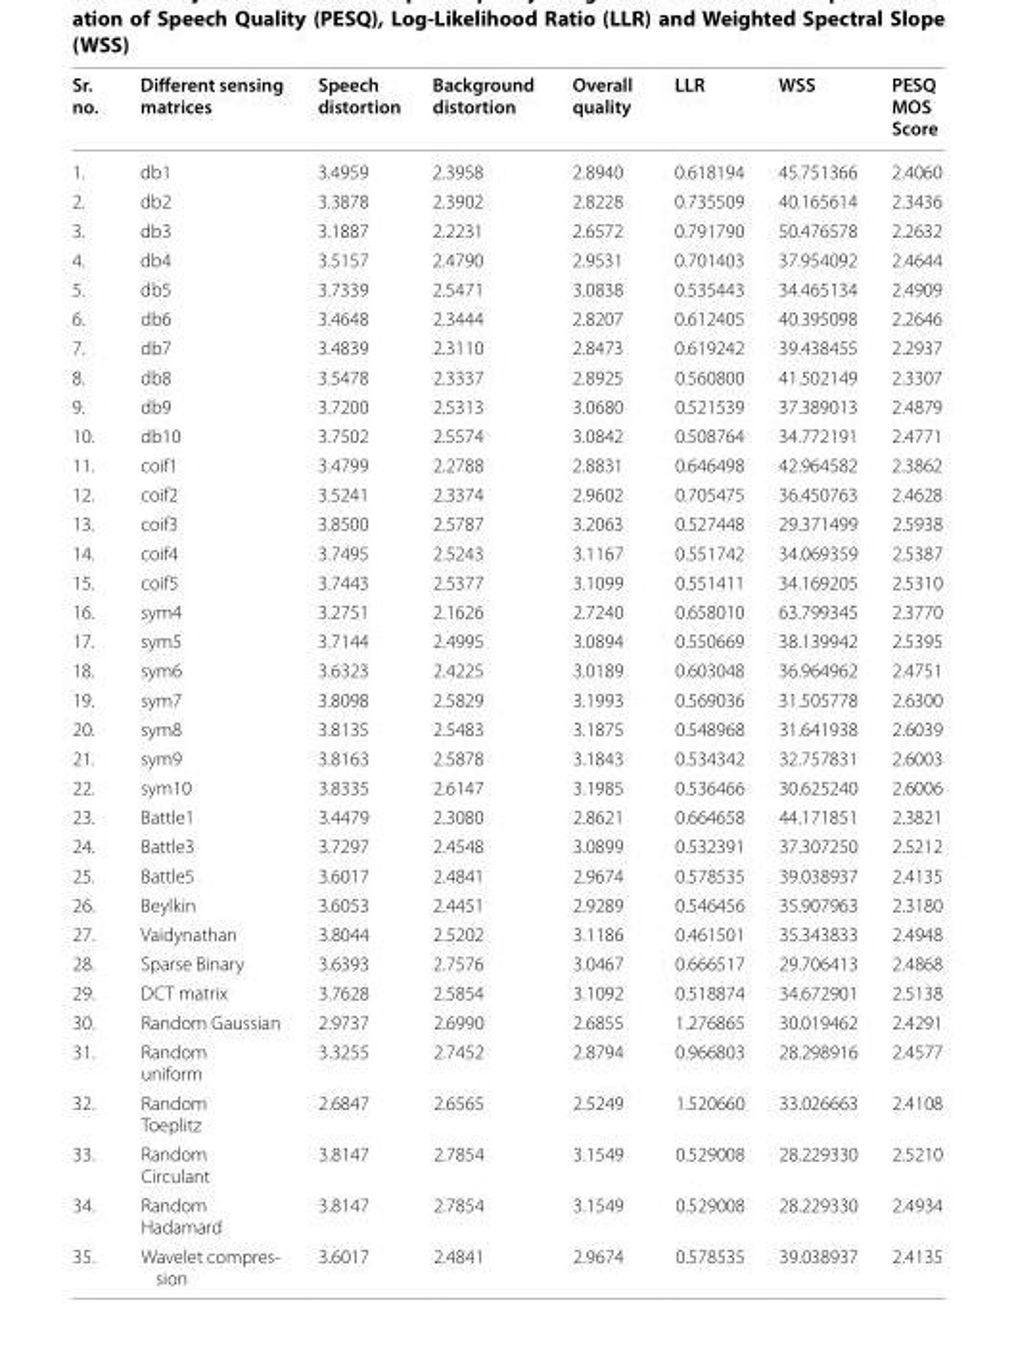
<table><thead><tr><td>Sr. no.</td><td>Different sensing matrices</td><td>Speech distortion</td><td>Background distortion</td><td>Overall quality</td><td>LLR</td><td>WSS</td><td>PESQ MOS Score</td></tr></thead><tbody><tr><td>1.</td><td>db1</td><td>3.4959</td><td>2.3958</td><td>2.8940</td><td>0.618194</td><td>45.751366</td><td>2.4060</td></tr><tr><td>2.</td><td>db2</td><td>3.3878</td><td>2.3902</td><td>2.8228</td><td>0.735509</td><td>40.165614</td><td>2.3436</td></tr><tr><td>3.</td><td>db3</td><td>3.1887</td><td>2.2231</td><td>2.6572</td><td>0.791790</td><td>50.476578</td><td>2.2632</td></tr><tr><td>4.</td><td>db4</td><td>3.5157</td><td>2.4790</td><td>2.9531</td><td>0.701403</td><td>37.954092</td><td>2.4644</td></tr><tr><td>5.</td><td>db5</td><td>3.7339</td><td>2.5471</td><td>3.0838</td><td>0.535443</td><td>34.465134</td><td>2.4909</td></tr><tr><td>6.</td><td>db6</td><td>3.4648</td><td>2.3444</td><td>2.8207</td><td>0.612405</td><td>40.395098</td><td>2.2646</td></tr><tr><td>7.</td><td>db7</td><td>3.4839</td><td>2.3110</td><td>2.8473</td><td>0.619242</td><td>39.438455</td><td>2.2937</td></tr><tr><td>8.</td><td>db8</td><td>3.5478</td><td>2.3337</td><td>2.8925</td><td>0.560800</td><td>41.502149</td><td>2.3307</td></tr><tr><td>9.</td><td>db9</td><td>3.7200</td><td>2.5313</td><td>3.0680</td><td>0.521539</td><td>37.389013</td><td>2.4879</td></tr><tr><td>10.</td><td>db10</td><td>3.7502</td><td>2.5574</td><td>3.0842</td><td>0.508764</td><td>34.772191</td><td>2.4771</td></tr><tr><td>11.</td><td>coif1</td><td>3.4799</td><td>2.2788</td><td>2.8831</td><td>0.646498</td><td>42.964582</td><td>2.3862</td></tr><tr><td>12.</td><td>coif2</td><td>3.5241</td><td>2.3374</td><td>2.9602</td><td>0.705475</td><td>36.450763</td><td>2.4628</td></tr><tr><td>13.</td><td>coif3</td><td>3.8500</td><td>2.5787</td><td>3.2063</td><td>0.527448</td><td>29.371499</td><td>2.5938</td></tr><tr><td>14.</td><td>coif4</td><td>3.7495</td><td>2.5243</td><td>3.1167</td><td>0.551742</td><td>34.069359</td><td>2.5387</td></tr><tr><td>15.</td><td>coif5</td><td>3.7443</td><td>2.5377</td><td>3.1099</td><td>0.551411</td><td>34.169205</td><td>2.5310</td></tr><tr><td>16.</td><td>sym4</td><td>3.2751</td><td>2.1626</td><td>2.7240</td><td>0.658010</td><td>63.799345</td><td>2.3770</td></tr><tr><td>17.</td><td>sym5</td><td>3.7144</td><td>2.4995</td><td>3.0894</td><td>0.550669</td><td>38.139942</td><td>2.5395</td></tr><tr><td>18.</td><td>sym6</td><td>3.6323</td><td>2.4225</td><td>3.0189</td><td>0.603048</td><td>36.964962</td><td>2.4751</td></tr><tr><td>19.</td><td>sym7</td><td>3.8098</td><td>2.5829</td><td>3.1993</td><td>0.569036</td><td>31.505778</td><td>2.6300</td></tr><tr><td>20.</td><td>sym8</td><td>3.8135</td><td>2.5483</td><td>3.1875</td><td>0.548968</td><td>31.641938</td><td>2.6039</td></tr><tr><td>21.</td><td>sym9</td><td>3.8163</td><td>2.5878</td><td>3.1843</td><td>0.534342</td><td>32.757831</td><td>2.6003</td></tr><tr><td>22.</td><td>sym10</td><td>3.8335</td><td>2.6147</td><td>3.1985</td><td>0.536466</td><td>30.625240</td><td>2.6006</td></tr><tr><td>23.</td><td>Battle1</td><td>3.4479</td><td>2.3080</td><td>2.8621</td><td>0.664658</td><td>44.171851</td><td>2.3821</td></tr><tr><td>24.</td><td>Battle3</td><td>3.7297</td><td>2.4548</td><td>3.0899</td><td>0.532391</td><td>37.307250</td><td>2.5212</td></tr><tr><td>25.</td><td>Battle5</td><td>3.6017</td><td>2.4841</td><td>2.9674</td><td>0.578535</td><td>39.038937</td><td>2.4135</td></tr><tr><td>26.</td><td>Beylkin</td><td>3.6053</td><td>2.4451</td><td>2.9289</td><td>0.546456</td><td>35.907963</td><td>2.3180</td></tr><tr><td>27.</td><td>Vaidynathan</td><td>3.8044</td><td>2.5202</td><td>3.1186</td><td>0.461501</td><td>35.343833</td><td>2.4948</td></tr><tr><td>28.</td><td>Sparse Binary</td><td>3.6393</td><td>2.7576</td><td>3.0467</td><td>0.666517</td><td>29.706413</td><td>2.4868</td></tr><tr><td>29.</td><td>DCT matrix</td><td>3.7628</td><td>2.5854</td><td>3.1092</td><td>0.518874</td><td>34.672901</td><td>2.5138</td></tr><tr><td>30.</td><td>Random Gaussian</td><td>2.9737</td><td>2.6990</td><td>2.6855</td><td>1.276865</td><td>30.019462</td><td>2.4291</td></tr><tr><td>31.</td><td>Random uniform</td><td>3.3255</td><td>2.7452</td><td>2.8794</td><td>0.966803</td><td>28.298916</td><td>2.4577</td></tr><tr><td>32.</td><td>Random Toeplitz</td><td>2.6847</td><td>2.6565</td><td>2.5249</td><td>1.520660</td><td>33.026663</td><td>2.4108</td></tr><tr><td>33.</td><td>Random Circulant</td><td>3.8147</td><td>2.7854</td><td>3.1549</td><td>0.529008</td><td>28.229330</td><td>2.5210</td></tr><tr><td>34.</td><td>Random Hadamard</td><td>3.8147</td><td>2.7854</td><td>3.1549</td><td>0.529008</td><td>28.229330</td><td>2.4934</td></tr><tr><td>35.</td><td>Wavelet compres- sion</td><td>3.6017</td><td>2.4841</td><td>2.9674</td><td>0.578535</td><td>39.038937</td><td>2.4135</td></tr></tbody></table>